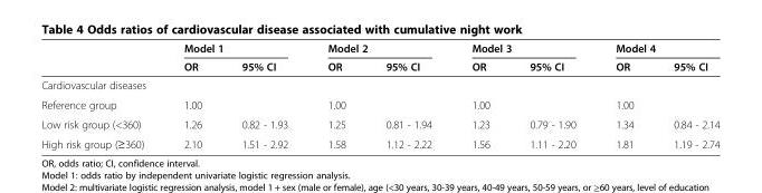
<table><thead><tr><td rowspan="2"></td><td colspan="2">Model 1</td><td colspan="2">Model 2</td><td colspan="2">Model 3</td><td colspan="2">Model 4</td></tr><tr><td>OR</td><td>95% CI</td><td>OR</td><td>95% CI</td><td>OR</td><td>95% CI</td><td>OR</td><td>95% CI</td></tr></thead><tbody><tr><td colspan="9">Cardiovascular diseases</td></tr><tr><td>Reference group</td><td>1.00</td><td></td><td>1.00</td><td></td><td>1.00</td><td></td><td>1.00</td><td></td></tr><tr><td>Low risk group (&lt;360)</td><td>1.26</td><td>0.82 - 1.93</td><td>1.25</td><td>0.81 - 1.94</td><td>1.23</td><td>0.79 - 1.90</td><td>1.34</td><td>0.84 - 2.14</td></tr><tr><td>High risk group (≥360)</td><td>2.10</td><td>1.51 - 2.92</td><td>1.58</td><td>1.12 - 2.22</td><td>1.56</td><td>1.11 - 2.20</td><td>1.81</td><td>1.19 - 2.74</td></tr></tbody></table>